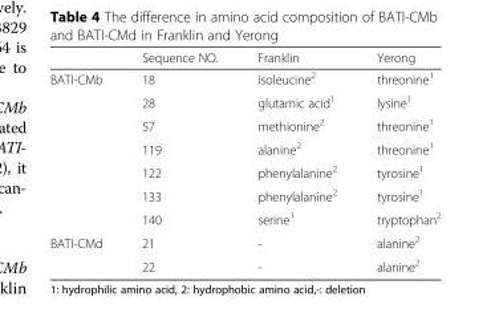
<table><thead><tr><td></td><td>Sequence NO.</td><td>Franklin</td><td>Yerong</td></tr></thead><tbody><tr><td rowspan="7">BATI-CMb</td><td>18</td><td>isoleucine<sup>2</sup></td><td>threonine<sup>1</sup></td></tr><tr><td>28</td><td>glutamic acid<sup>1</sup></td><td>lysine<sup>1</sup></td></tr><tr><td>57</td><td>methionine<sup>2</sup></td><td>threonine<sup>1</sup></td></tr><tr><td>119</td><td>alanine<sup>2</sup></td><td>threonine<sup>1</sup></td></tr><tr><td>122</td><td>phenylalanine<sup>2</sup></td><td>tyrosine<sup>1</sup></td></tr><tr><td>133</td><td>phenylalanine<sup>2</sup></td><td>tyrosine<sup>1</sup></td></tr><tr><td>140</td><td>serine<sup>1</sup></td><td>tryptophan<sup>2</sup></td></tr><tr><td rowspan="2">BATI-CMd</td><td>21</td><td>-</td><td>alanine<sup>2</sup></td></tr><tr><td>22</td><td>-</td><td>alanine<sup>2</sup></td></tr></tbody></table>